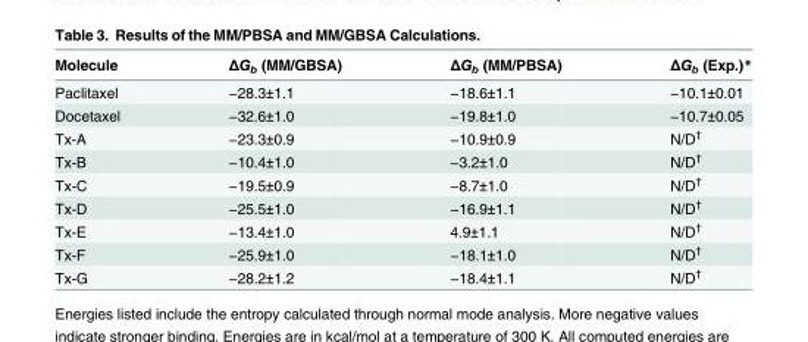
<table><thead><tr><td>Molecule</td><td>ΔG<sub>b</sub> (MM/GBSA)</td><td>ΔG<sub>b</sub> (MM/PBSA)</td><td>ΔG<sub>b</sub> (Exp.)*</td></tr></thead><tbody><tr><td>Paclitaxel</td><td>−28.3±1.1</td><td>−18.6±1.1</td><td>−10.1±0.01</td></tr><tr><td>Docetaxel</td><td>−32.6±1.0</td><td>−19.8±1.0</td><td>−10.7±0.05</td></tr><tr><td>Tx-A</td><td>−23.3±0.9</td><td>−10.9±0.9</td><td>N/D<sup>†</sup></td></tr><tr><td>Tx-B</td><td>−10.4±1.0</td><td>−3.2±1.0</td><td>N/D<sup>†</sup></td></tr><tr><td>Tx-C</td><td>−19.5±0.9</td><td>−8.7±1.0</td><td>N/D<sup>†</sup></td></tr><tr><td>Tx-D</td><td>−25.5±1.0</td><td>−16.9±1.1</td><td>N/D<sup>†</sup></td></tr><tr><td>Tx-E</td><td>−13.4±1.0</td><td>4.9±1.1</td><td>N/D<sup>†</sup></td></tr><tr><td>Tx-F</td><td>−25.9±1.0</td><td>−18.1±1.0</td><td>N/D<sup>†</sup></td></tr><tr><td>Tx-G</td><td>−28.2±1.2</td><td>−18.4±1.1</td><td>N/D<sup>†</sup></td></tr></tbody></table>